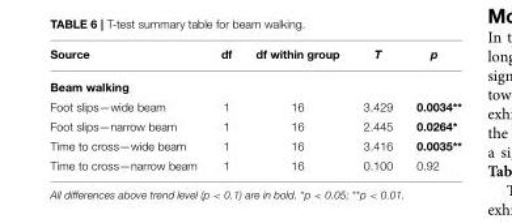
<table><thead><tr><td>Source</td><td>df</td><td>df within group</td><td>T</td><td>p</td></tr></thead><tbody><tr><td colspan="5">Beam walking</td></tr><tr><td>Foot slips—wide beam</td><td>1</td><td>16</td><td>3.429</td><td>0.0034**</td></tr><tr><td>Foot slips—narrow beam</td><td>1</td><td>16</td><td>2.445</td><td>0.0264*</td></tr><tr><td>Time to cross—wide beam</td><td>1</td><td>16</td><td>3.416</td><td>0.0035**</td></tr><tr><td>Time to cross—narrow beam</td><td>1</td><td>16</td><td>0.100</td><td>0.92</td></tr></tbody></table>